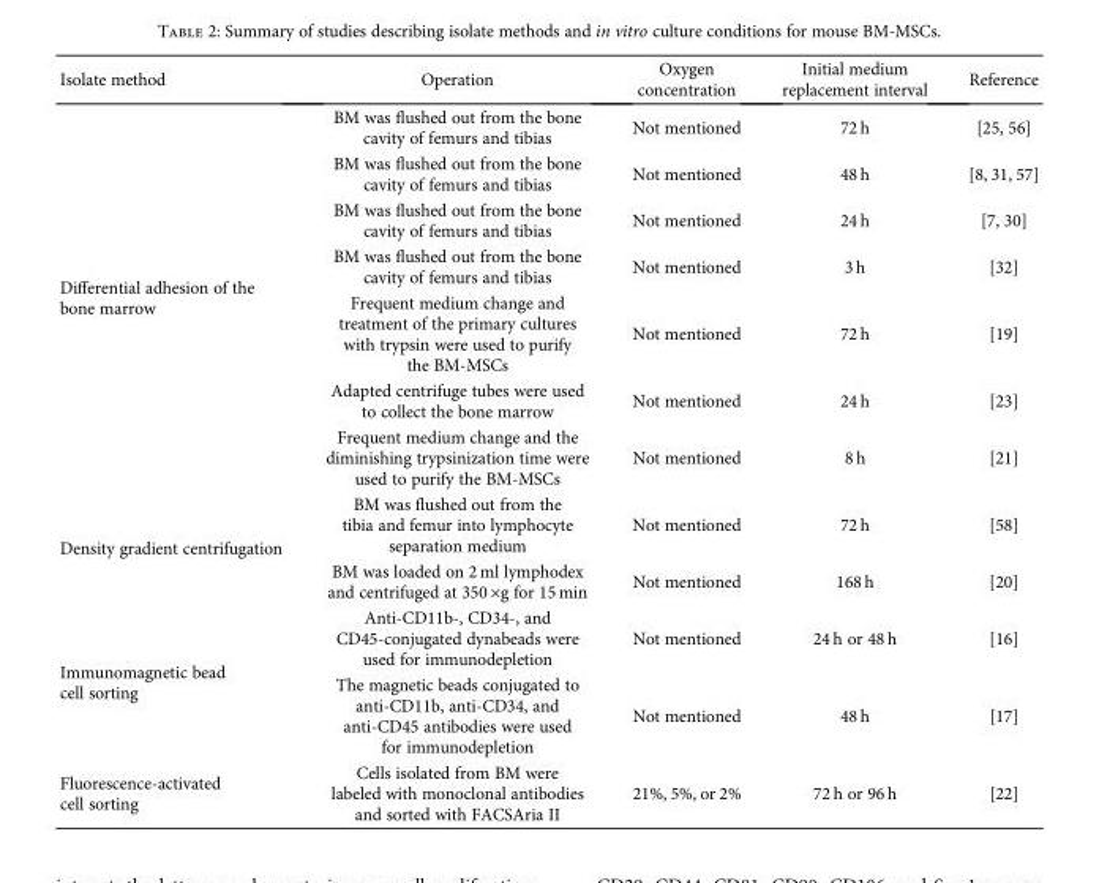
<table><thead><tr><td>Isolate method</td><td>Operation</td><td>Oxygen concentration</td><td>Initial medium replacement interval</td><td>Reference</td></tr></thead><tbody><tr><td rowspan="7">Differential adhesion of the bone marrow</td><td>BM was flushed out from the bone cavity of femurs and tibias</td><td>Not mentioned</td><td>72 h</td><td>[25, 56]</td></tr><tr><td>BM was flushed out from the bone cavity of femurs and tibias</td><td>Not mentioned</td><td>48 h</td><td>[8, 31, 57]</td></tr><tr><td>BM was flushed out from the bone cavity of femurs and tibias</td><td>Not mentioned</td><td>24 h</td><td>[7, 30]</td></tr><tr><td>BM was flushed out from the bone cavity of femurs and tibias</td><td>Not mentioned</td><td>3 h</td><td>[32]</td></tr><tr><td>Frequent medium change and treatment of the primary cultures with trypsin were used to purify the BM-MSCs</td><td>Not mentioned</td><td>72 h</td><td>[19]</td></tr><tr><td>Adapted centrifuge tubes were used to collect the bone marrow</td><td>Not mentioned</td><td>24 h</td><td>[23]</td></tr><tr><td>Frequent medium change and the diminishing trypsinization time were used to purify the BM-MSCs</td><td>Not mentioned</td><td>8 h</td><td>[21]</td></tr><tr><td rowspan="2">Density gradient centrifugation</td><td>BM was flushed out from the tibia and femur into lymphocyte separation medium</td><td>Not mentioned</td><td>72 h</td><td>[58]</td></tr><tr><td>BM was loaded on 2 ml lymphodex and centrifuged at 350 ×g for 15 min</td><td>Not mentioned</td><td>168 h</td><td>[20]</td></tr><tr><td rowspan="2">Immunomagnetic bead cell sorting</td><td>Anti-CD11b-, CD34-, and CD45-conjugated dynabeads were used for immunodepletion</td><td>Not mentioned</td><td>24 h or 48 h</td><td>[16]</td></tr><tr><td>The magnetic beads conjugated to anti-CD11b, anti-CD34, and anti-CD45 antibodies were used for immunodepletion</td><td>Not mentioned</td><td>48 h</td><td>[17]</td></tr><tr><td>Fluorescence-activated cell sorting</td><td>Cells isolated from BM were labeled with monoclonal antibodies and sorted with FACSAria II</td><td>21%, 5%, or 2%</td><td>72 h or 96 h</td><td>[22]</td></tr></tbody></table>